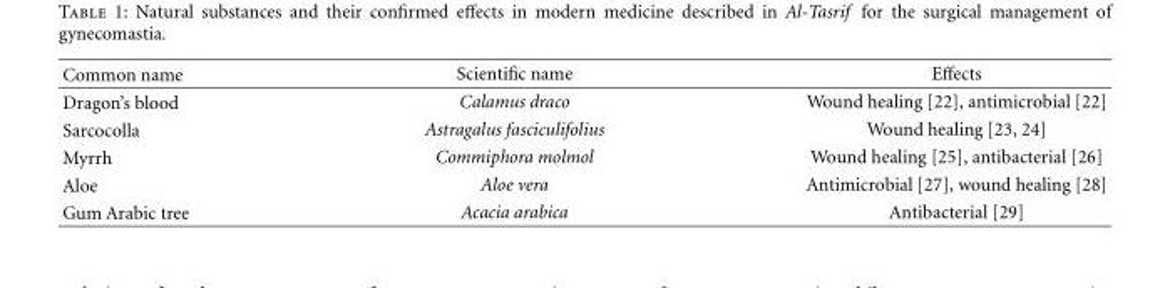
<table><thead><tr><td>Common name</td><td>Scientific name</td><td>Effects</td></tr></thead><tbody><tr><td>Dragon’s blood</td><td>Calamus draco</td><td>Wound healing [22], antimicrobial [22]</td></tr><tr><td>Sarcocolla</td><td>Astragalus fasciculifolius</td><td>Wound healing [23, 24]</td></tr><tr><td>Myrrh</td><td>Commiphora molmol</td><td>Wound healing [25], antibacterial [26]</td></tr><tr><td>Aloe</td><td>Aloe vera</td><td>Antimicrobial [27], wound healing [28]</td></tr><tr><td>Gum Arabic tree</td><td>Acacia arabica</td><td>Antibacterial [29]</td></tr></tbody></table>